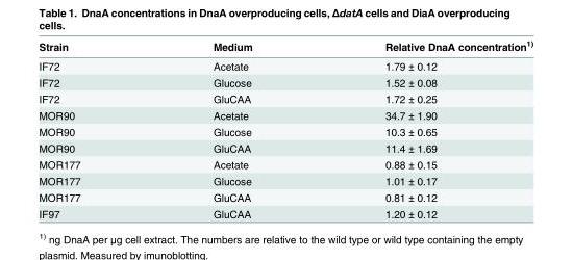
<table><thead><tr><td>Strain</td><td>Medium</td><td>Relative DnaA concentration<sup>1)</sup></td></tr></thead><tbody><tr><td>IF72</td><td>Acetate</td><td>1.79 ± 0.12</td></tr><tr><td>IF72</td><td>Glucose</td><td>1.52 ± 0.08</td></tr><tr><td>IF72</td><td>GluCAA</td><td>1.72 ± 0.25</td></tr><tr><td>MOR90</td><td>Acetate</td><td>34.7 ± 1.90</td></tr><tr><td>MOR90</td><td>Glucose</td><td>10.3 ± 0.65</td></tr><tr><td>MOR90</td><td>GluCAA</td><td>11.4 ± 1.69</td></tr><tr><td>MOR177</td><td>Acetate</td><td>0.88 ± 0.15</td></tr><tr><td>MOR177</td><td>Glucose</td><td>1.01 ± 0.17</td></tr><tr><td>MOR177</td><td>GluCAA</td><td>0.81 ± 0.12</td></tr><tr><td>IF97</td><td>GluCAA</td><td>1.20 ± 0.12</td></tr></tbody></table>